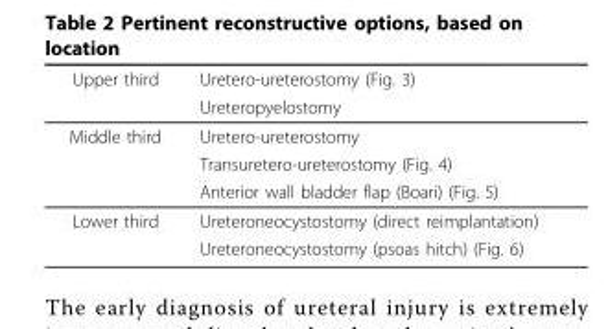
<table><thead><tr><td rowspan="2">Upper third</td><td rowspan="2">Uretero-ureterostomy (Fig. 3) Ureteropyelostomy</td></tr><tr></tr></thead><tbody><tr><td rowspan="3">Middle third</td><td>Uretero-ureterostomy</td></tr><tr><td>Transuretero-ureterostomy (Fig. 4)</td></tr><tr><td>Anterior wall bladder flap (Boari) (Fig. 5)</td></tr><tr><td rowspan="2">Lower third</td><td>Ureteroneocystostomy (direct reimplantation)</td></tr><tr><td>Ureteroneocystostomy (psoas hitch) (Fig. 6)</td></tr></tbody></table>